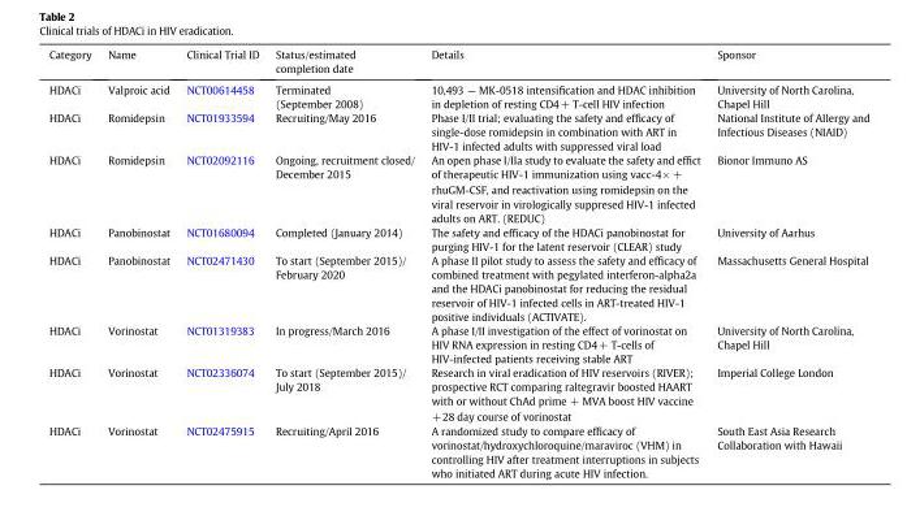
<table><thead><tr><td>Category</td><td>Name</td><td>Clinical Trial ID</td><td>Status/estimated completion date</td><td>Details</td><td>Sponsor</td></tr></thead><tbody><tr><td>HDACi</td><td>Valproic acid</td><td>NCT00614458</td><td>Terminated (September 2008)</td><td>10,493 — MK-0518 intensification and HDAC inhibition in depletion of resting CD4+ T-cell HIV infection</td><td>University of North Carolina, Chapel Hill</td></tr><tr><td>HDACi</td><td>Romidepsin</td><td>NCT01933594</td><td>Recruiting/May 2016</td><td>Phase I/II trial; evaluating the safety and efficacy of single-dose romidepsin in combination with ART in HIV-1 infected adults with suppressed viral load</td><td>National Institute of Allergy and Infectious Diseases (NIAID)</td></tr><tr><td>HDACi</td><td>Romidepsin</td><td>NCT02092116</td><td>Ongoing, recruitment closed/ December 2015</td><td>An open phase I/IIa study to evaluate the safety and effict of therapeutic HIV-1 immunization using vacc-4× + rhuGM-CSF, and reactivation using romidepsin on the viral reservoir in virologically suppresed HIV-1 infected adults on ART. (REDUC)</td><td>Bionor Immuno AS</td></tr><tr><td>HDACi</td><td>Panobinostat</td><td>NCT01680094</td><td>Completed (January 2014)</td><td>The safety and efficacy of the HDACi panobinostat for purging HIV-1 for the latent reservoir (CLEAR) study</td><td>University of Aarhus</td></tr><tr><td>HDACi</td><td>Panobinostat</td><td>NCT02471430</td><td>To start (September 2015)/ February 2020</td><td>A phase II pilot study to assess the safety and efficacy of combined treatment with pegylated interferon-alpha2a and the HDACi panobinostat for reducing the residual reservoir of HIV-1 infected cells in ART-treated HIV-1 positive individuals (ACTIVATE).</td><td>Massachusetts General Hospital</td></tr><tr><td>HDACi</td><td>Vorinostat</td><td>NCT01319383</td><td>In progress/March 2016</td><td>A phase I/II investigation of the effect of vorinostat on HIV RNA expression in resting CD4+ T-cells of HIV-infected patients receiving stable ART</td><td>University of North Carolina, Chapel Hill</td></tr><tr><td>HDACi</td><td>Vorinostat</td><td>NCT02336074</td><td>To start (September 2015)/ July 2018</td><td>Research in viral eradication of HIV reservoirs (RIVER); prospective RCT comparing raltegravir boosted HAART with or without ChAd prime + MVA boost HIV vaccine +28 day course of vorinostat</td><td>Imperial College London</td></tr><tr><td>HDACi</td><td>Vorinostat</td><td>NCT02475915</td><td>Recruiting/April 2016</td><td>A randomized study to compare efficacy of vorinostat/hydroxychloroquine/maraviroc (VHM) in controlling HIV after treatment interruptions in subjects who initiated ART during acute HIV infection.</td><td>South East Asia Research Collaboration with Hawaii</td></tr></tbody></table>